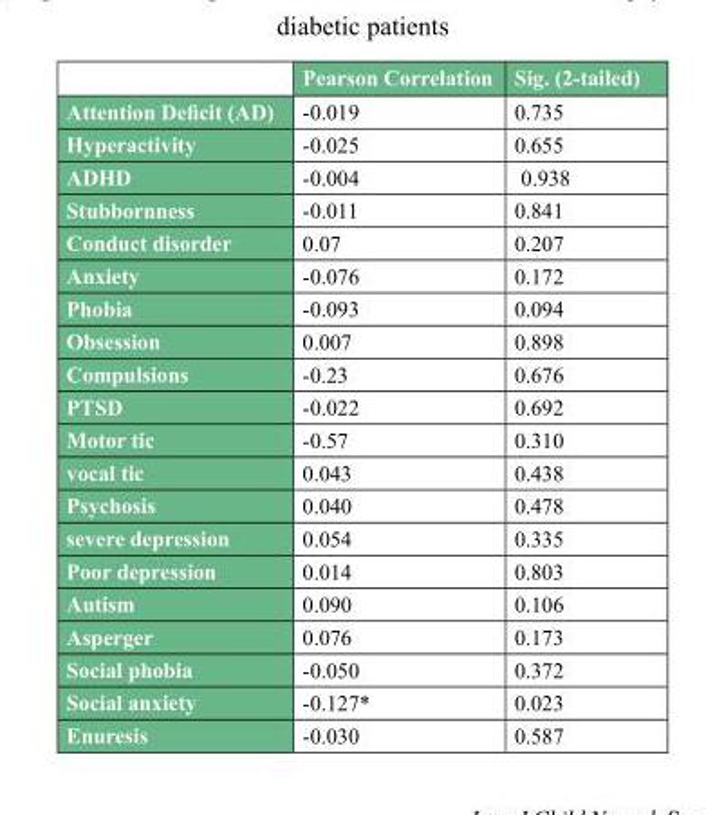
<table><thead><tr><td></td><td>Pearson Correlation</td><td>Sig. (2-tailed)</td></tr></thead><tbody><tr><td>Attention Deficit (AD)</td><td>-0.019</td><td>0.735</td></tr><tr><td>Hyperactivity</td><td>-0.025</td><td>0.655</td></tr><tr><td>ADHD</td><td>-0.004</td><td>0.938</td></tr><tr><td>Stubbornness</td><td>-0.011</td><td>0.841</td></tr><tr><td>Conduct disorder</td><td>0.07</td><td>0.207</td></tr><tr><td>Anxiety</td><td>-0.076</td><td>0.172</td></tr><tr><td>Phobia</td><td>-0.093</td><td>0.094</td></tr><tr><td>Obsession</td><td>0.007</td><td>0.898</td></tr><tr><td>Compulsions</td><td>-0.23</td><td>0.676</td></tr><tr><td>PTSD</td><td>-0.022</td><td>0.692</td></tr><tr><td>Motor tic</td><td>-0.57</td><td>0.310</td></tr><tr><td>vocal tic</td><td>0.043</td><td>0.438</td></tr><tr><td>Psychosis</td><td>0.040</td><td>0.478</td></tr><tr><td>severe depression</td><td>0.054</td><td>0.335</td></tr><tr><td>Poor depression</td><td>0.014</td><td>0.803</td></tr><tr><td>Autism</td><td>0.090</td><td>0.106</td></tr><tr><td>Asperger</td><td>0.076</td><td>0.173</td></tr><tr><td>Social phobia</td><td>-0.050</td><td>0.372</td></tr><tr><td>Social anxiety</td><td>-0.127*</td><td>0.023</td></tr><tr><td>Enuresis</td><td>-0.030</td><td>0.587</td></tr></tbody></table>